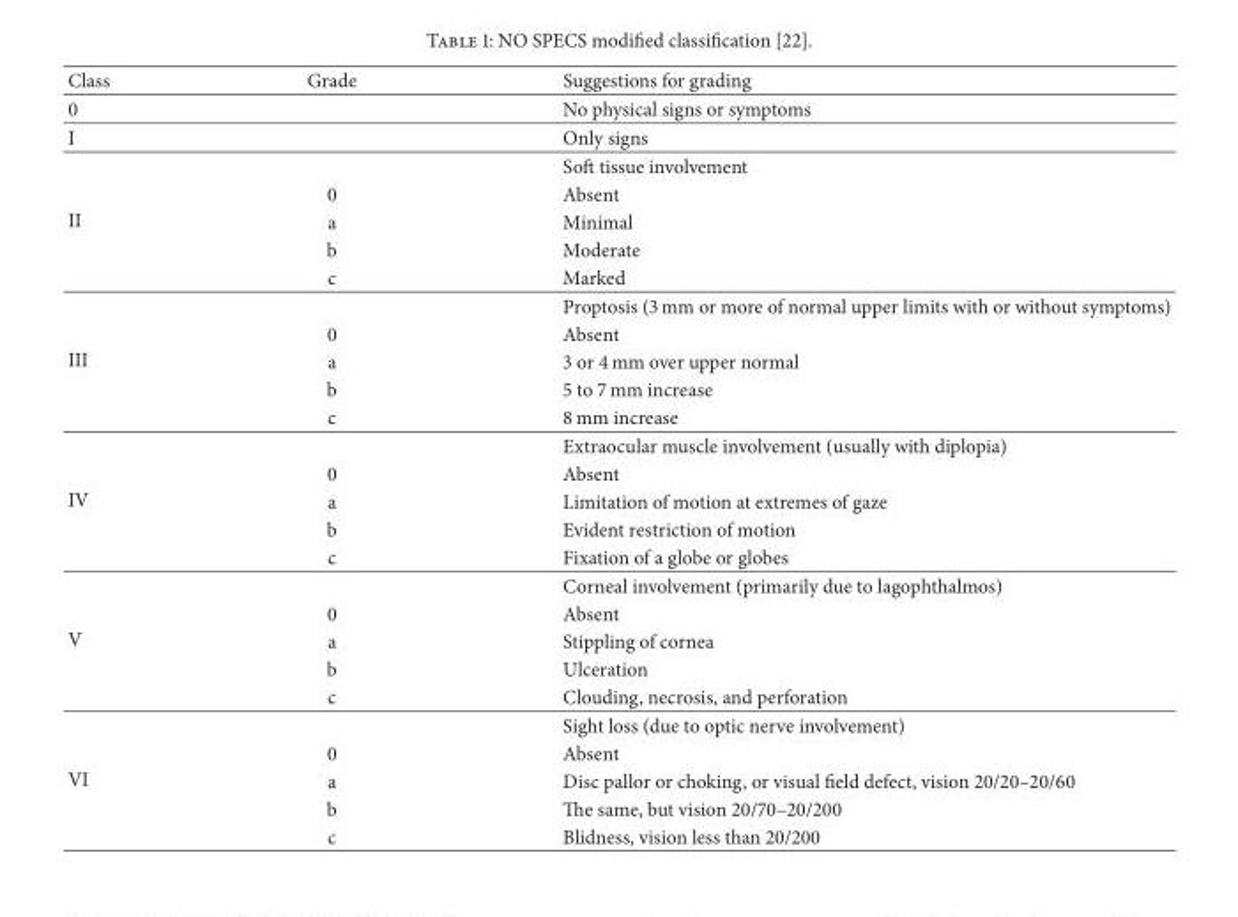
<table><thead><tr><td>Class</td><td>Grade</td><td>Suggestions for grading</td></tr></thead><tbody><tr><td>0</td><td></td><td>No physical signs or symptoms</td></tr><tr><td>I</td><td></td><td>Only signs</td></tr><tr><td rowspan="5">II</td><td></td><td>Soft tissue involvement</td></tr><tr><td>0</td><td>Absent</td></tr><tr><td>a</td><td>Minimal</td></tr><tr><td>b</td><td>Moderate</td></tr><tr><td>c</td><td>Marked</td></tr><tr><td rowspan="5">III</td><td></td><td>Proptosis (3 mm or more of normal upper limits with or without symptoms)</td></tr><tr><td>0</td><td>Absent</td></tr><tr><td>a</td><td>3 or 4 mm over upper normal</td></tr><tr><td>b</td><td>5 to 7 mm increase</td></tr><tr><td>c</td><td>8 mm increase</td></tr><tr><td rowspan="5">IV</td><td></td><td>Extraocular muscle involvement (usually with diplopia)</td></tr><tr><td>0</td><td>Absent</td></tr><tr><td>a</td><td>Limitation of motion at extremes of gaze</td></tr><tr><td>b</td><td>Evident restriction of motion</td></tr><tr><td>c</td><td>Fixation of a globe or globes</td></tr><tr><td rowspan="5">V</td><td></td><td>Corneal involvement (primarily due to lagophthalmos)</td></tr><tr><td>0</td><td>Absent</td></tr><tr><td>a</td><td>Stippling of cornea</td></tr><tr><td>b</td><td>Ulceration</td></tr><tr><td>c</td><td>Clouding, necrosis, and perforation</td></tr><tr><td rowspan="5">VI</td><td></td><td>Sight loss (due to optic nerve involvement)</td></tr><tr><td>0</td><td>Absent</td></tr><tr><td>a</td><td>Disc pallor or choking, or visual field defect, vision 20/20–20/60</td></tr><tr><td>b</td><td>The same, but vision 20/70–20/200</td></tr><tr><td>c</td><td>Blidness, vision less than 20/200</td></tr></tbody></table>